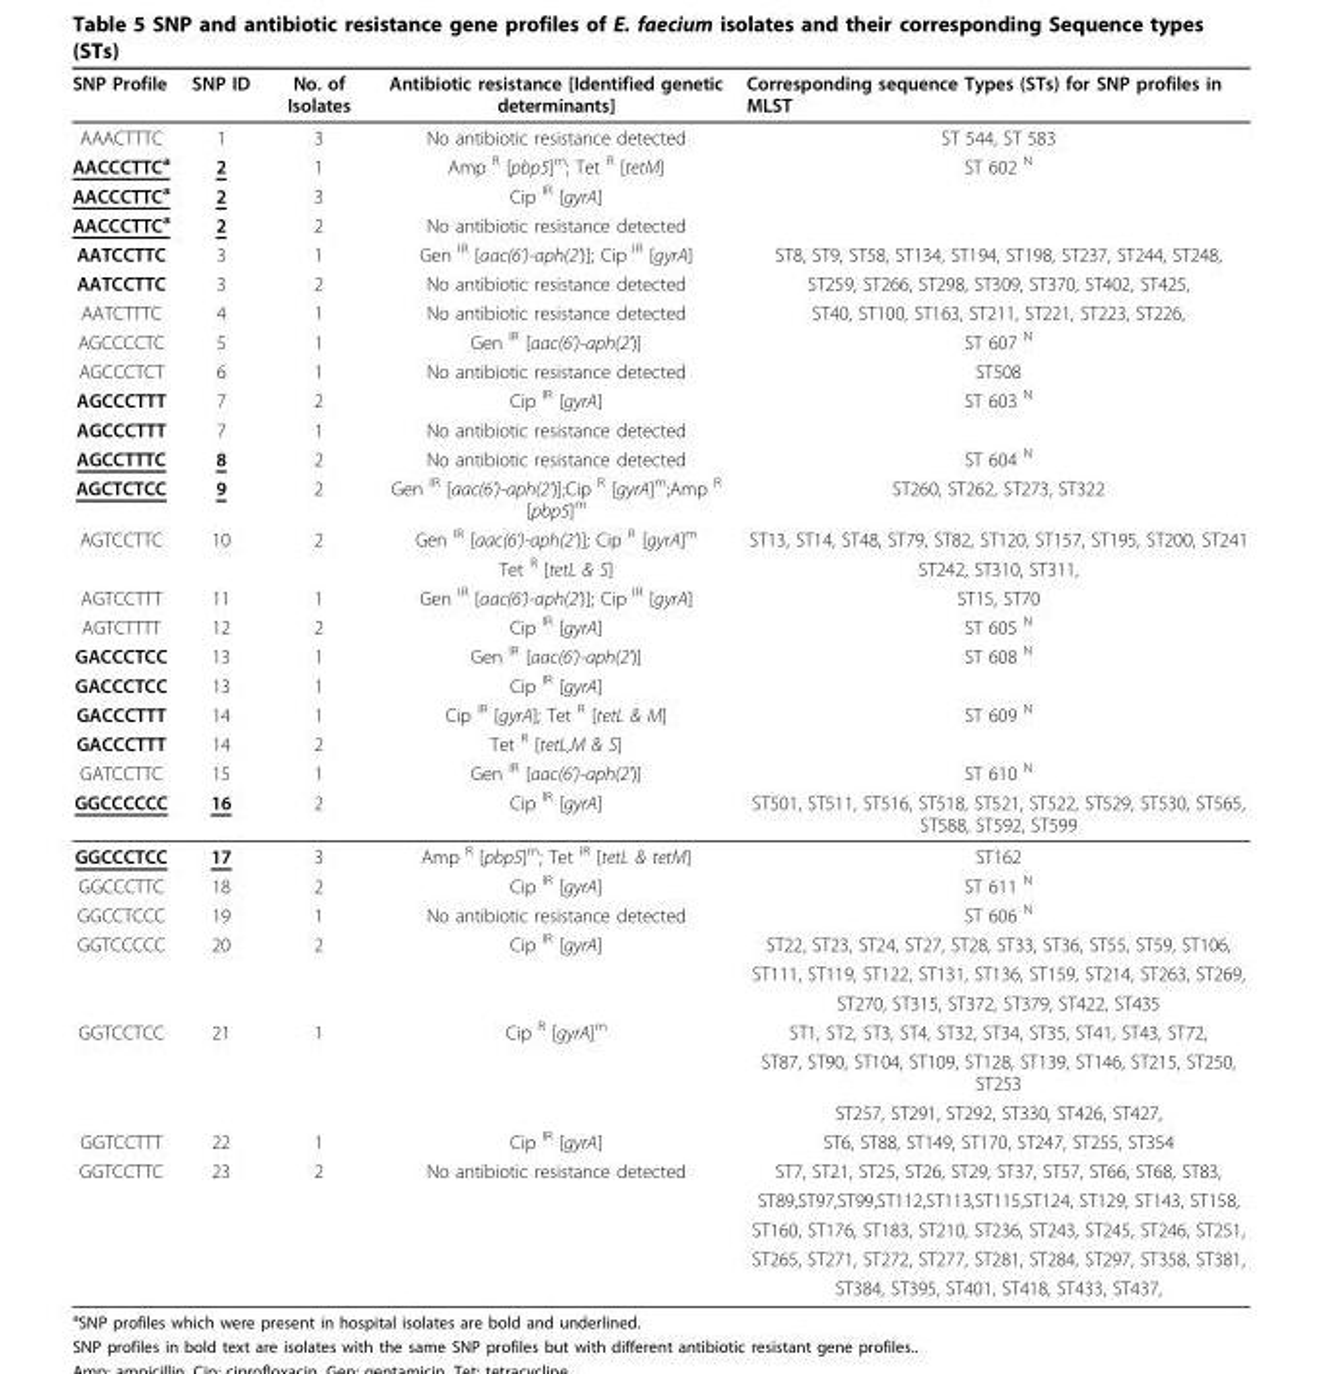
<table><thead><tr><td>SNP Profile</td><td>SNP ID</td><td>No. of Isolates</td><td>Antibiotic resistance [Identified genetic determinants]</td><td>Corresponding sequence Types (STs) for SNP profiles in MLST</td></tr></thead><tbody><tr><td>AAACTTTC</td><td>1</td><td>3</td><td>No antibiotic resistance detected</td><td>ST 544, ST 583</td></tr><tr><td>AACCCTTC<sup>a</sup></td><td>2</td><td>1</td><td>Amp <sup>R</sup> [pbp5]<sup>m</sup>; Tet <sup>R</sup> [tetM]</td><td>ST 602 <sup>N</sup></td></tr><tr><td>AACCCTTC<sup>a</sup></td><td>2</td><td>3</td><td>Cip <sup>IR</sup> [gyrA]</td><td></td></tr><tr><td>AACCCTTC<sup>a</sup></td><td>2</td><td>2</td><td>No antibiotic resistance detected</td><td></td></tr><tr><td>AATCCTTC</td><td>3</td><td>1</td><td>Gen <sup>IR</sup> [aac(6’)-aph(2’)]; Cip <sup>IR</sup> [gyrA]</td><td>ST8, ST9, ST58, ST134, ST194, ST198, ST237, ST244, ST248,</td></tr><tr><td>AATCCTTC</td><td>3</td><td>2</td><td>No antibiotic resistance detected</td><td>ST259, ST266, ST298, ST309, ST370, ST402, ST425,</td></tr><tr><td>AATCTTTC</td><td>4</td><td>1</td><td>No antibiotic resistance detected</td><td>ST40, ST100, ST163, ST211, ST221, ST223, ST226,</td></tr><tr><td>AGCCCCTC</td><td>5</td><td>1</td><td>Gen <sup>IR</sup> [aac(6’)-aph(2’)]</td><td>ST 607 <sup>N</sup></td></tr><tr><td>AGCCCTCT</td><td>6</td><td>1</td><td>No antibiotic resistance detected</td><td>ST508</td></tr><tr><td>AGCCCTTT</td><td>7</td><td>2</td><td>Cip <sup>IR</sup> [gyrA]</td><td>ST 603 <sup>N</sup></td></tr><tr><td>AGCCCTTT</td><td>7</td><td>1</td><td>No antibiotic resistance detected</td><td></td></tr><tr><td>AGCCTTTC</td><td>8</td><td>2</td><td>No antibiotic resistance detected</td><td>ST 604 <sup>N</sup></td></tr><tr><td>AGCTCTCC</td><td>9</td><td>2</td><td>Gen <sup>IR</sup> [aac(6’)-aph(2’)];Cip <sup>R</sup> [gyrA]<sup>m</sup>;Amp <sup>R</sup> [pbp5]<sup>m</sup></td><td>ST260, ST262, ST273, ST322</td></tr><tr><td rowspan="2">AGTCCTTC</td><td>10</td><td>2</td><td>Gen <sup>IR</sup> [aac(6’)-aph(2’)]; Cip <sup>R</sup> [gyrA]<sup>m</sup></td><td>ST13, ST14, ST48, ST79, ST82, ST120, ST157, ST195, ST200, ST241</td></tr><tr><td></td><td></td><td>Tet <sup>R</sup> [tetL &amp; S]</td><td>ST242, ST310, ST311,</td></tr><tr><td>AGTCCTTT</td><td>11</td><td>1</td><td>Gen <sup>IR</sup> [aac(6’)-aph(2’)]; Cip <sup>IR</sup> [gyrA]</td><td>ST15, ST70</td></tr><tr><td>AGTCTTTT</td><td>12</td><td>2</td><td>Cip <sup>IR</sup> [gyrA]</td><td>ST 605 <sup>N</sup></td></tr><tr><td>GACCCTCC</td><td>13</td><td>1</td><td>Gen <sup>IR</sup> [aac(6’)-aph(2’)]</td><td>ST 608 <sup>N</sup></td></tr><tr><td>GACCCTCC</td><td>13</td><td>1</td><td>Cip <sup>IR</sup> [gyrA]</td><td></td></tr><tr><td>GACCCTTT</td><td>14</td><td>1</td><td>Cip <sup>IR</sup> [gyrA]; Tet <sup>R</sup> [tetL &amp; M]</td><td>ST 609 <sup>N</sup></td></tr><tr><td>GACCCTTT</td><td>14</td><td>2</td><td>Tet <sup>R</sup> [tetL,M &amp; S]</td><td></td></tr><tr><td>GATCCTTC</td><td>15</td><td>1</td><td>Gen <sup>IR</sup> [aac(6’)-aph(2’)]</td><td>ST 610 <sup>N</sup></td></tr><tr><td>GGCCCCCC</td><td>16</td><td>2</td><td>Cip <sup>IR</sup> [gyrA]</td><td>ST501, ST511, ST516, ST518, ST521, ST522, ST529, ST530, ST565, ST588, ST592, ST599</td></tr><tr><td>GGCCCTCC</td><td>17</td><td>3</td><td>Amp <sup>R</sup> [pbp5]<sup>m</sup>; Tet <sup>IR</sup> [tetL &amp; tetM]</td><td>ST162</td></tr><tr><td>GGCCCTTC</td><td>18</td><td>2</td><td>Cip <sup>IR</sup> [gyrA]</td><td>ST 611 <sup>N</sup></td></tr><tr><td>GGCCTCCC</td><td>19</td><td>1</td><td>No antibiotic resistance detected</td><td>ST 606 <sup>N</sup></td></tr><tr><td rowspan="3">GGTCCCCC</td><td>20</td><td>2</td><td>Cip <sup>IR</sup> [gyrA]</td><td>ST22, ST23, ST24, ST27, ST28, ST33, ST36, ST55, ST59, ST106,</td></tr><tr><td></td><td></td><td></td><td>ST111, ST119, ST122, ST131, ST136, ST159, ST214, ST263, ST269,</td></tr><tr><td></td><td></td><td></td><td>ST270, ST315, ST372, ST379, ST422, ST435</td></tr><tr><td rowspan="3">GGTCCTCC</td><td>21</td><td>1</td><td>Cip <sup>R</sup> [gyrA]<sup>m</sup></td><td>ST1, ST2, ST3, ST4, ST32, ST34, ST35, ST41, ST43, ST72,</td></tr><tr><td></td><td></td><td></td><td>ST87, ST90, ST104, ST109, ST128, ST139, ST146, ST215, ST250, ST253</td></tr><tr><td></td><td></td><td></td><td>ST257, ST291, ST292, ST330, ST426, ST427,</td></tr><tr><td>GGTCCTTT</td><td>22</td><td>1</td><td>Cip <sup>IR</sup> [gyrA]</td><td>ST6, ST88, ST149, ST170, ST247, ST255, ST354</td></tr><tr><td rowspan="5">GGTCCTTC</td><td>23</td><td>2</td><td>No antibiotic resistance detected</td><td>ST7, ST21, ST25, ST26, ST29, ST37, ST57, ST66, ST68, ST83,</td></tr><tr><td></td><td></td><td></td><td>ST89,ST97,ST99,ST112,ST113,ST115,ST124, ST129, ST143, ST158,</td></tr><tr><td></td><td></td><td></td><td>ST160, ST176, ST183, ST210, ST236, ST243, ST245, ST246, ST251,</td></tr><tr><td></td><td></td><td></td><td>ST265, ST271, ST272, ST277, ST281, ST284, ST297, ST358, ST381,</td></tr><tr><td></td><td></td><td></td><td>ST384, ST395, ST401, ST418, ST433, ST437,</td></tr></tbody></table>